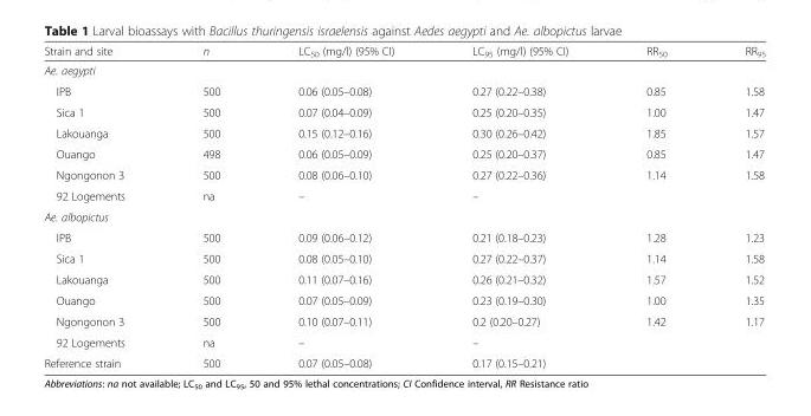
<table><thead><tr><td>Strain and site</td><td>n</td><td>LC<sub>50</sub> (mg/l) (95% CI)</td><td>LC<sub>95</sub> (mg/l) (95% CI)</td><td>RR<sub>50</sub></td><td>RR<sub>95</sub></td></tr></thead><tbody><tr><td colspan="6">Ae. aegypti</td></tr><tr><td>IPB</td><td>500</td><td>0.06 (0.05–0.08)</td><td>0.27 (0.22–0.38)</td><td>0.85</td><td>1.58</td></tr><tr><td>Sica 1</td><td>500</td><td>0.07 (0.04–0.09)</td><td>0.25 (0.20–0.35)</td><td>1.00</td><td>1.47</td></tr><tr><td>Lakouanga</td><td>500</td><td>0.15 (0.12–0.16)</td><td>0.30 (0.26–0.42)</td><td>1.85</td><td>1.57</td></tr><tr><td>Ouango</td><td>498</td><td>0.06 (0.05–0.09)</td><td>0.25 (0.20–0.37)</td><td>0.85</td><td>1.47</td></tr><tr><td>Ngongonon 3</td><td>500</td><td>0.08 (0.06–0.10)</td><td>0.27 (0.22–0.36)</td><td>1.14</td><td>1.58</td></tr><tr><td>92 Logements</td><td>na</td><td>–</td><td>–</td><td></td><td></td></tr><tr><td colspan="6">Ae. albopictus</td></tr><tr><td>IPB</td><td>500</td><td>0.09 (0.06–0.12)</td><td>0.21 (0.18–0.23)</td><td>1.28</td><td>1.23</td></tr><tr><td>Sica 1</td><td>500</td><td>0.08 (0.05–0.10)</td><td>0.27 (0.22–0.37)</td><td>1.14</td><td>1.58</td></tr><tr><td>Lakouanga</td><td>500</td><td>0.11 (0.07–0.16)</td><td>0.26 (0.21–0.32)</td><td>1.57</td><td>1.52</td></tr><tr><td>Ouango</td><td>500</td><td>0.07 (0.05–0.09)</td><td>0.23 (0.19–0.30)</td><td>1.00</td><td>1.35</td></tr><tr><td>Ngongonon 3</td><td>500</td><td>0.10 (0.07–0.11)</td><td>0.2 (0.20–0.27)</td><td>1.42</td><td>1.17</td></tr><tr><td>92 Logements</td><td>na</td><td>–</td><td>–</td><td></td><td></td></tr><tr><td>Reference strain</td><td>500</td><td>0.07 (0.05–0.08)</td><td>0.17 (0.15–0.21)</td><td></td><td></td></tr></tbody></table>